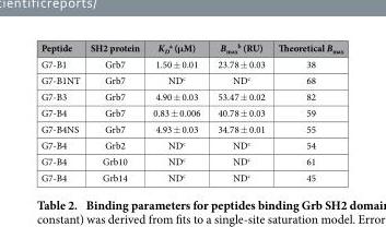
<table><thead><tr><td>Peptide</td><td>SH2 protein</td><td>K<sub>D</sub> <sup>a</sup> (μM)</td><td>Bmax b (RU)</td><td>Theoretical B<sub>max</sub></td></tr></thead><tbody><tr><td>G7-B1</td><td>Grb7</td><td>1.50 ± 0.01</td><td>23.78 ± 0.03</td><td>38</td></tr><tr><td>G7-B1NT</td><td>Grb7</td><td>ND<sup>c</sup></td><td>ND<sup>c</sup></td><td>68</td></tr><tr><td>G7-B3</td><td>Grb7</td><td>4.90 ± 0.03</td><td>53.47 ± 0.02</td><td>82</td></tr><tr><td>G7-B4</td><td>Grb7</td><td>0.83 ± 0.006</td><td>40.78 ± 0.03</td><td>59</td></tr><tr><td>G7-B4NS</td><td>Grb7</td><td>4.93 ± 0.03</td><td>34.78 ± 0.01</td><td>55</td></tr><tr><td>G7-B4</td><td>Grb2</td><td>ND<sup>c</sup></td><td>ND<sup>c</sup></td><td>54</td></tr><tr><td>G7-B4</td><td>Grb10</td><td>ND<sup>c</sup></td><td>ND<sup>c</sup></td><td>61</td></tr><tr><td>G7-B4</td><td>Grb14</td><td>ND<sup>c</sup></td><td>ND<sup>c</sup></td><td>45</td></tr></tbody></table>